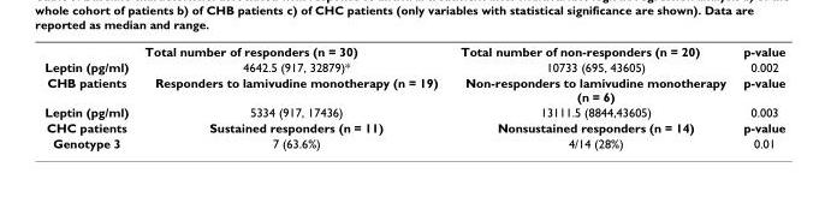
<table><thead><tr><td></td><td>Total number of responders (n = 30)</td><td>Total number of non-responders (n = 20)</td><td>p-value</td></tr></thead><tbody><tr><td>Leptin (pg/ml)</td><td>4642.5 (917, 32879)*</td><td>10733 (695, 43605)</td><td>0.002</td></tr><tr><td>CHB patients</td><td>Responders to lamivudine monotherapy (n = 19)</td><td>Non-responders to lamivudine monotherapy (n = 6)</td><td>p-value</td></tr><tr><td>Leptin (pg/ml)</td><td>5334 (917, 17436)</td><td>13111.5 (8844,43605)</td><td>0.003</td></tr><tr><td>CHC patients</td><td>Sustained responders (n = 11)</td><td>Nonsustained responders (n = 14)</td><td>p-value</td></tr><tr><td>Genotype 3</td><td>7 (63.6%)</td><td>4/14 (28%)</td><td>0.01</td></tr></tbody></table>